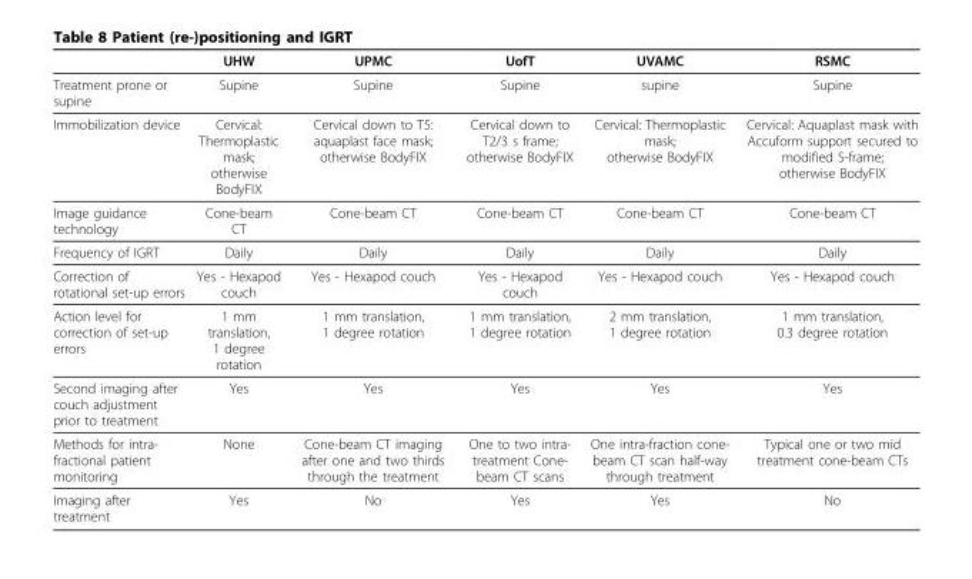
<table><thead><tr><td></td><td>UHW</td><td>UPMC</td><td>UofT</td><td>UVAMC</td><td>RSMC</td></tr></thead><tbody><tr><td>Treatment prone or supine</td><td>Supine</td><td>Supine</td><td>Supine</td><td>supine</td><td>Supine</td></tr><tr><td>Immobilization device</td><td>Cervical: Thermoplastic mask; otherwise BodyFIX</td><td>Cervical down to T5: aquaplast face mask; otherwise BodyFIX</td><td>Cervical down to T2/3 s frame; otherwise BodyFIX</td><td>Cervical: Thermoplastic mask; otherwise BodyFIX</td><td>Cervical: Aquaplast mask with Accuform support secured to modified S-frame; otherwise BodyFIX</td></tr><tr><td>Image guidance technology</td><td>Cone-beam CT</td><td>Cone-beam CT</td><td>Cone-beam CT</td><td>Cone-beam CT</td><td>Cone-beam CT</td></tr><tr><td>Frequency of IGRT</td><td>Daily</td><td>Daily</td><td>Daily</td><td>Daily</td><td>Daily</td></tr><tr><td>Correction of rotational set-up errors</td><td>Yes - Hexapod couch</td><td>Yes - Hexapod couch</td><td>Yes - Hexapod couch</td><td>Yes - Hexapod couch</td><td>Yes - Hexapod couch</td></tr><tr><td>Action level for correction of set-up errors</td><td>1 mm translation, 1 degree rotation</td><td>1 mm translation, 1 degree rotation</td><td>1 mm translation, 1 degree rotation</td><td>2 mm translation, 1 degree rotation</td><td>1 mm translation, 0.3 degree rotation</td></tr><tr><td>Second imaging after couch adjustment prior to treatment</td><td>Yes</td><td>Yes</td><td>Yes</td><td>Yes</td><td>Yes</td></tr><tr><td>Methods for intra- fractional patient monitoring</td><td>None</td><td>Cone-beam CT imaging after one and two thirds through the treatment</td><td>One to two intra- treatment Cone- beam CT scans</td><td>One intra-fraction cone- beam CT scan half-way through treatment</td><td>Typical one or two mid treatment cone-beam CTs</td></tr><tr><td>Imaging after treatment</td><td>Yes</td><td>No</td><td>Yes</td><td>Yes</td><td>No</td></tr></tbody></table>